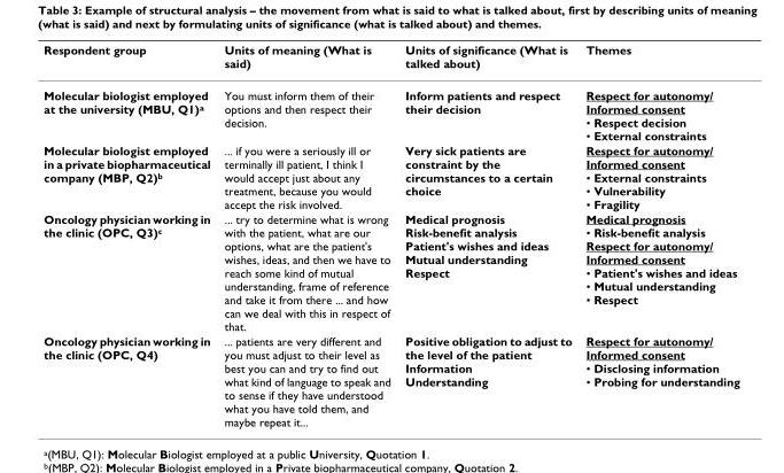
<table><thead><tr><td>Respondent group</td><td>Units of meaning (What is said)</td><td>Units of significance (What is talked about)</td><td>Themes</td></tr></thead><tbody><tr><td>Molecular biologist employed at the university (MBU, Q1)<sup>a</sup></td><td>You must inform them of their options and then respect their decision.</td><td>Inform patients and respect their decision</td><td>Respect for autonomy/ Informed consent • Respect decision • External constraints</td></tr><tr><td>Molecular biologist employed in a private biopharmaceutical company (MBP, Q2)<sup>b</sup></td><td>... if you were a seriously ill or terminally ill patient, I think I would accept just about any treatment, because you would accept the risk involved.</td><td>Very sick patients are constraint by the circumstances to a certain choice</td><td>Respect for autonomy/ Informed consent • External constraints • Vulnerability • Fragility</td></tr><tr><td>Oncology physician working in the clinic (OPC, Q3)<sup>c</sup></td><td>... try to determine what is wrong with the patient, what are our options, what are the patient&#x27;s wishes, ideas, and then we have to reach some kind of mutual understanding, frame of reference and take it from there ... and how can we deal with this in respect of that.</td><td>Medical prognosis Risk-benefit analysis Patient&#x27;s wishes and ideas Mutual understanding Respect</td><td>Medical prognosis • Risk-benefit analysis Respect for autonomy/ Informed consent • Patient&#x27;s wishes and ideas • Mutual understanding • Respect</td></tr><tr><td>Oncology physician working in the clinic (OPC, Q4)</td><td>... patients are very different and you must adjust to their level as best you can and try to find out what kind of language to speak and to sense if they have understood what you have told them, and maybe repeat it...</td><td>Positive obligation to adjust to the level of the patient Information Understanding</td><td>Respect for autonomy/ Informed consent • Disclosing information • Probing for understanding</td></tr></tbody></table>